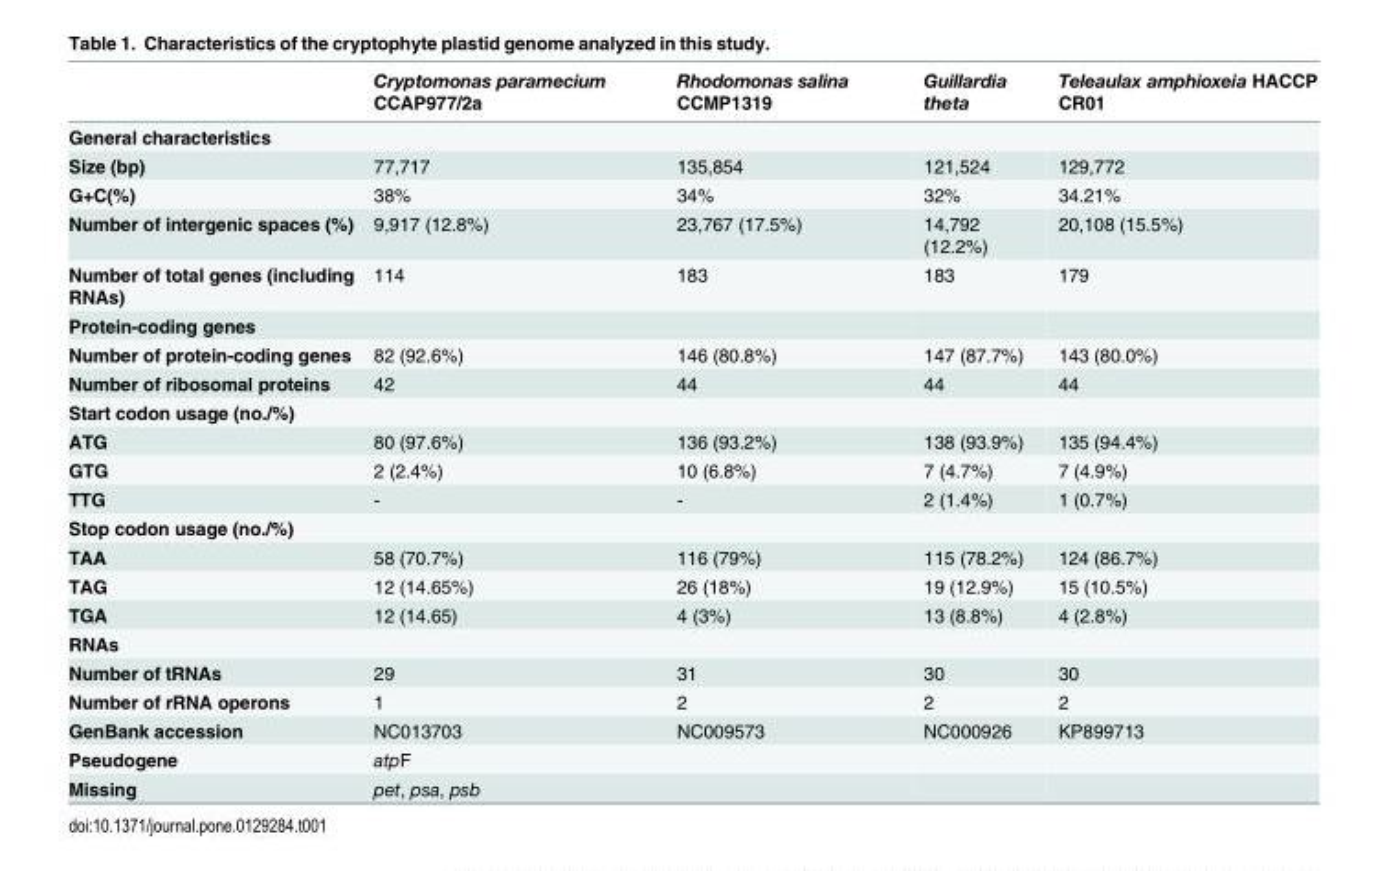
<table><thead><tr><td></td><td>Cryptomonas paramecium CCAP977/2a</td><td>Rhodomonas salina CCMP1319</td><td>Guillardia theta</td><td>Teleaulax amphioxeia HACCP CR01</td></tr></thead><tbody><tr><td colspan="5">General characteristics</td></tr><tr><td>Size (bp)</td><td>77,717</td><td>135,854</td><td>121,524</td><td>129,772</td></tr><tr><td>G+C(%)</td><td>38%</td><td>34%</td><td>32%</td><td>34.21%</td></tr><tr><td>Number of intergenic spaces (%)</td><td>9,917 (12.8%)</td><td>23,767 (17.5%)</td><td>14,792 (12.2%)</td><td>20,108 (15.5%)</td></tr><tr><td>Number of total genes (including RNAs)</td><td>114</td><td>183</td><td>183</td><td>179</td></tr><tr><td colspan="5">Protein-coding genes</td></tr><tr><td>Number of protein-coding genes</td><td>82 (92.6%)</td><td>146 (80.8%)</td><td>147 (87.7%)</td><td>143 (80.0%)</td></tr><tr><td>Number of ribosomal proteins</td><td>42</td><td>44</td><td>44</td><td>44</td></tr><tr><td colspan="5">Start codon usage (no./%)</td></tr><tr><td>ATG</td><td>80 (97.6%)</td><td>136 (93.2%)</td><td>138 (93.9%)</td><td>135 (94.4%)</td></tr><tr><td>GTG</td><td>2 (2.4%)</td><td>10 (6.8%)</td><td>7 (4.7%)</td><td>7 (4.9%)</td></tr><tr><td>TTG</td><td>-</td><td>-</td><td>2 (1.4%)</td><td>1 (0.7%)</td></tr><tr><td colspan="5">Stop codon usage (no./%)</td></tr><tr><td>TAA</td><td>58 (70.7%)</td><td>116 (79%)</td><td>115 (78.2%)</td><td>124 (86.7%)</td></tr><tr><td>TAG</td><td>12 (14.65%)</td><td>26 (18%)</td><td>19 (12.9%)</td><td>15 (10.5%)</td></tr><tr><td>TGA</td><td>12 (14.65)</td><td>4 (3%)</td><td>13 (8.8%)</td><td>4 (2.8%)</td></tr><tr><td colspan="5">RNAs</td></tr><tr><td>Number of tRNAs</td><td>29</td><td>31</td><td>30</td><td>30</td></tr><tr><td>Number of rRNA operons</td><td>1</td><td>2</td><td>2</td><td>2</td></tr><tr><td>GenBank accession</td><td>NC013703</td><td>NC009573</td><td>NC000926</td><td>KP899713</td></tr><tr><td>Pseudogene</td><td>atpF</td><td></td><td></td><td></td></tr><tr><td>Missing</td><td>pet, psa, psb</td><td></td><td></td><td></td></tr></tbody></table>